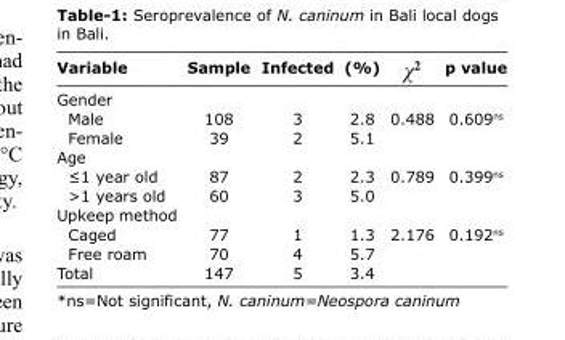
<table><thead><tr><td>Variable</td><td>Sample</td><td>Infected</td><td>(%)</td><td>χ<sup>2</sup></td><td>p value</td></tr></thead><tbody><tr><td colspan="6">Gender</td></tr><tr><td>Male</td><td>108</td><td>3</td><td>2.8</td><td>0.488</td><td>0.609<sup>ns</sup></td></tr><tr><td>Female</td><td>39</td><td>2</td><td>5.1</td><td></td><td></td></tr><tr><td colspan="6">Age</td></tr><tr><td>≤1 year old</td><td>87</td><td>2</td><td>2.3</td><td>0.789</td><td>0.399<sup>ns</sup></td></tr><tr><td>&gt;1 years old</td><td>60</td><td>3</td><td>5.0</td><td></td><td></td></tr><tr><td colspan="6">Upkeep method</td></tr><tr><td>Caged</td><td>77</td><td>1</td><td>1.3</td><td>2.176</td><td>0.192<sup>ns</sup></td></tr><tr><td>Free roam</td><td>70</td><td>4</td><td>5.7</td><td></td><td></td></tr><tr><td>Total</td><td>147</td><td>5</td><td>3.4</td><td></td><td></td></tr></tbody></table>